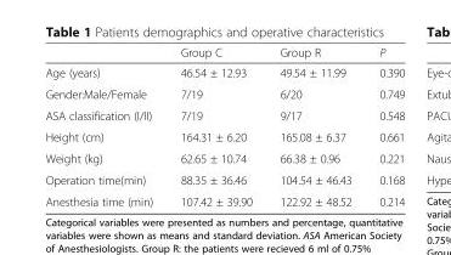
<table><thead><tr><td></td><td>Group C</td><td>Group R</td><td>P</td></tr></thead><tbody><tr><td>Age (years)</td><td>46.54 ± 12.93</td><td>49.54 ± 11.99</td><td>0.390</td></tr><tr><td>Gender:Male/Female</td><td>7/19</td><td>6/20</td><td>0.749</td></tr><tr><td>ASA classification (I/II)</td><td>7/19</td><td>9/17</td><td>0.548</td></tr><tr><td>Height (cm)</td><td>164.31 ± 6.20</td><td>165.08 ± 6.37</td><td>0.661</td></tr><tr><td>Weight (kg)</td><td>62.65 ± 10.74</td><td>66.38 ± 0.96</td><td>0.221</td></tr><tr><td>Operation time(min)</td><td>88.35 ± 36.46</td><td>104.54 ± 46.43</td><td>0.168</td></tr><tr><td>Anesthesia time (min)</td><td>107.42 ± 39.90</td><td>122.92 ± 48.52</td><td>0.214</td></tr></tbody></table>